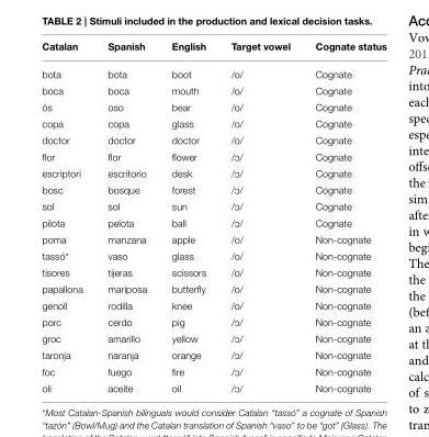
<table><thead><tr><td>Catalan</td><td>Spanish</td><td>English</td><td>Target vowel</td><td>Cognate status</td></tr></thead><tbody><tr><td>bota</td><td>bota</td><td>boot</td><td>/o/</td><td>Cognate</td></tr><tr><td>boca</td><td>boca</td><td>mouth</td><td>/o/</td><td>Cognate</td></tr><tr><td>ós</td><td>oso</td><td>bear</td><td>/o/</td><td>Cognate</td></tr><tr><td>copa</td><td>copa</td><td>glass</td><td>/o/</td><td>Cognate</td></tr><tr><td>doctor</td><td>doctor</td><td>doctor</td><td>/o/</td><td>Cognate</td></tr><tr><td>flor</td><td>flor</td><td>flower</td><td>/ c /</td><td>Cognate</td></tr><tr><td>escriptori</td><td>escritorio</td><td>desk</td><td>/ c /</td><td>Cognate</td></tr><tr><td>bosc</td><td>bosque</td><td>forest</td><td>/ c /</td><td>Cognate</td></tr><tr><td>sol</td><td>sol</td><td>sun</td><td>/ c /</td><td>Cognate</td></tr><tr><td>pilota</td><td>pelota</td><td>ball</td><td>/ c /</td><td>Cognate</td></tr><tr><td>poma</td><td>manzana</td><td>apple</td><td>/o/</td><td>Non-cognate</td></tr><tr><td>tassó*</td><td>vaso</td><td>glass</td><td>/o/</td><td>Non-cognate</td></tr><tr><td>tisores</td><td>tijeras</td><td>scissors</td><td>/o/</td><td>Non-cognate</td></tr><tr><td>papallona</td><td>mariposa</td><td>butterfly</td><td>/o/</td><td>Non-cognate</td></tr><tr><td>genoll</td><td>rodilla</td><td>knee</td><td>/o/</td><td>Non-cognate</td></tr><tr><td>porc</td><td>cerdo</td><td>pig</td><td>/ c /</td><td>Non-cognate</td></tr><tr><td>groc</td><td>amarillo</td><td>yellow</td><td>/ c /</td><td>Non-cognate</td></tr><tr><td>taronja</td><td>naranja</td><td>orange</td><td>/ c /</td><td>Non-cognate</td></tr><tr><td>foc</td><td>fuego</td><td>fire</td><td>/ c /</td><td>Non-cognate</td></tr><tr><td>oli</td><td>aceite</td><td>oil</td><td>/ c /</td><td>Non-cognate</td></tr></tbody></table>